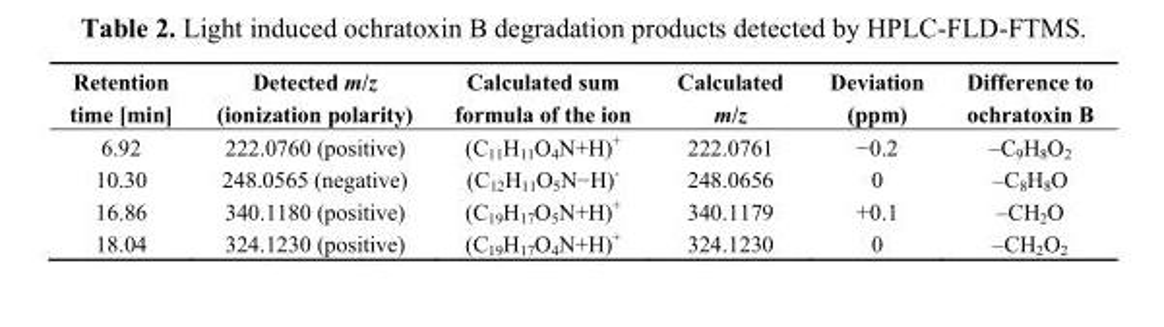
<table><thead><tr><td>Retention time [min]</td><td>Detected m/z (ionization polarity)</td><td>Calculated sum formula of the ion</td><td>Calculated m/z</td><td>Deviation (ppm)</td><td>Difference to ochratoxin B</td></tr></thead><tbody><tr><td>6.92</td><td>222.0760 (positive)</td><td>(C<sub>11</sub>H<sub>11</sub>O<sub>4</sub>N+H)<sup>+</sup></td><td>222.0761</td><td>−0.2</td><td>–C<sub>9</sub>H<sub>8</sub>O<sub>2</sub></td></tr><tr><td>10.30</td><td>248.0565 (negative)</td><td>(C<sub>12</sub>H<sub>11</sub>O<sub>5</sub>N−H)<sup>-</sup></td><td>248.0656</td><td>0</td><td>–C<sub>8</sub>H<sub>8</sub>O</td></tr><tr><td>16.86</td><td>340.1180 (positive)</td><td>(C<sub>19</sub>H<sub>17</sub>O<sub>5</sub>N+H)<sup>+</sup></td><td>340.1179</td><td>+0.1</td><td>–CH<sub>2</sub>O</td></tr><tr><td>18.04</td><td>324.1230 (positive)</td><td>(C<sub>19</sub>H<sub>17</sub>O<sub>4</sub>N+H)<sup>+</sup></td><td>324.1230</td><td>0</td><td>–CH<sub>2</sub>O<sub>2</sub></td></tr></tbody></table>